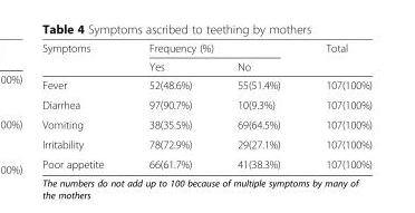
<table><thead><tr><td rowspan="2">Symptoms</td><td colspan="2">Frequency (%)</td><td rowspan="2">Total</td></tr><tr><td>Yes</td><td>No</td></tr></thead><tbody><tr><td>Fever</td><td>52(48.6%)</td><td>55(51.4%)</td><td>107(100%)</td></tr><tr><td>Diarrhea</td><td>97(90.7%)</td><td>10(9.3%)</td><td>107(100%)</td></tr><tr><td>Vomiting</td><td>38(35.5%)</td><td>69(64.5%)</td><td>107(100%)</td></tr><tr><td>Irritability</td><td>78(72.9%)</td><td>29(27.1%)</td><td>107(100%)</td></tr><tr><td>Poor appetite</td><td>66(61.7%)</td><td>41(38.3%)</td><td>107(100%)</td></tr></tbody></table>